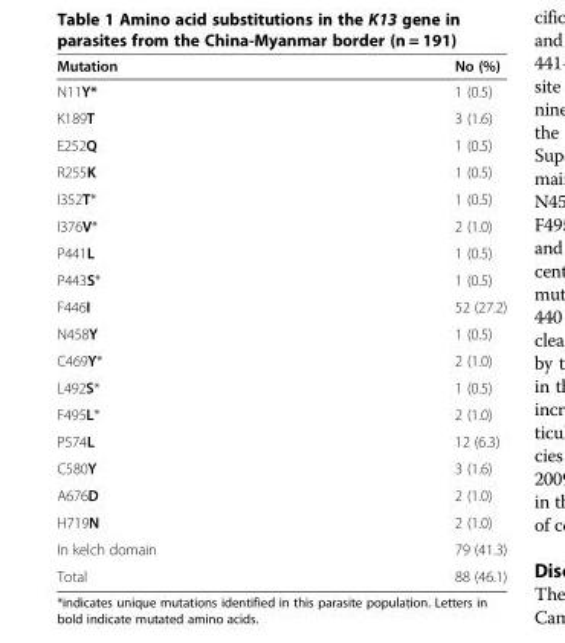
<table><thead><tr><td>Mutation</td><td>No (%)</td></tr></thead><tbody><tr><td>N11Y*</td><td>1 (0.5)</td></tr><tr><td>K189T</td><td>3 (1.6)</td></tr><tr><td>E252Q</td><td>1 (0.5)</td></tr><tr><td>R255K</td><td>1 (0.5)</td></tr><tr><td>I352T*</td><td>1 (0.5)</td></tr><tr><td>I376V*</td><td>2 (1.0)</td></tr><tr><td>P441L</td><td>1 (0.5)</td></tr><tr><td>P443S*</td><td>1 (0.5)</td></tr><tr><td>F446I</td><td>52 (27.2)</td></tr><tr><td>N458Y</td><td>1 (0.5)</td></tr><tr><td>C469Y*</td><td>2 (1.0)</td></tr><tr><td>L492S*</td><td>1 (0.5)</td></tr><tr><td>F495L*</td><td>2 (1.0)</td></tr><tr><td>P574L</td><td>12 (6.3)</td></tr><tr><td>C580Y</td><td>3 (1.6)</td></tr><tr><td>A676D</td><td>2 (1.0)</td></tr><tr><td>H719N</td><td>2 (1.0)</td></tr><tr><td>In kelch domain</td><td>79 (41.3)</td></tr><tr><td>Total</td><td>88 (46.1)</td></tr></tbody></table>